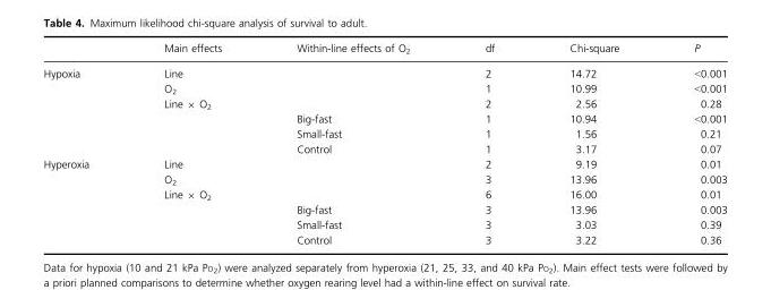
<table><thead><tr><td></td><td>Main effects</td><td>Within-line effects of O<sub>2</sub></td><td>df</td><td>Chi-square</td><td>P</td></tr></thead><tbody><tr><td rowspan="6">Hypoxia</td><td>Line</td><td></td><td>2</td><td>14.72</td><td>&lt;0.001</td></tr><tr><td>O<sub>2</sub></td><td></td><td>1</td><td>10.99</td><td>&lt;0.001</td></tr><tr><td>Line × O<sub>2</sub></td><td></td><td>2</td><td>2.56</td><td>0.28</td></tr><tr><td></td><td>Big-fast</td><td>1</td><td>10.94</td><td>&lt;0.001</td></tr><tr><td></td><td>Small-fast</td><td>1</td><td>1.56</td><td>0.21</td></tr><tr><td></td><td>Control</td><td>1</td><td>3.17</td><td>0.07</td></tr><tr><td rowspan="6">Hyperoxia</td><td>Line</td><td></td><td>2</td><td>9.19</td><td>0.01</td></tr><tr><td>O<sub>2</sub></td><td></td><td>3</td><td>13.96</td><td>0.003</td></tr><tr><td>Line × O<sub>2</sub></td><td></td><td>6</td><td>16.00</td><td>0.01</td></tr><tr><td></td><td>Big-fast</td><td>3</td><td>13.96</td><td>0.003</td></tr><tr><td></td><td>Small-fast</td><td>3</td><td>3.03</td><td>0.39</td></tr><tr><td></td><td>Control</td><td>3</td><td>3.22</td><td>0.36</td></tr></tbody></table>